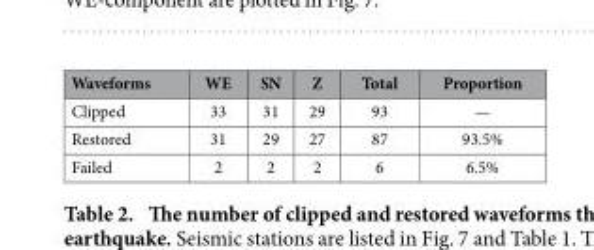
<table><thead><tr><td>Waveforms</td><td>WE</td><td>SN</td><td>Z</td><td>Total</td><td>Proportion</td></tr></thead><tbody><tr><td>Clipped</td><td>33</td><td>31</td><td>29</td><td>93</td><td>—</td></tr><tr><td>Restored</td><td>31</td><td>29</td><td>27</td><td>87</td><td>93.5%</td></tr><tr><td>Failed</td><td>2</td><td>2</td><td>2</td><td>6</td><td>6.5%</td></tr></tbody></table>